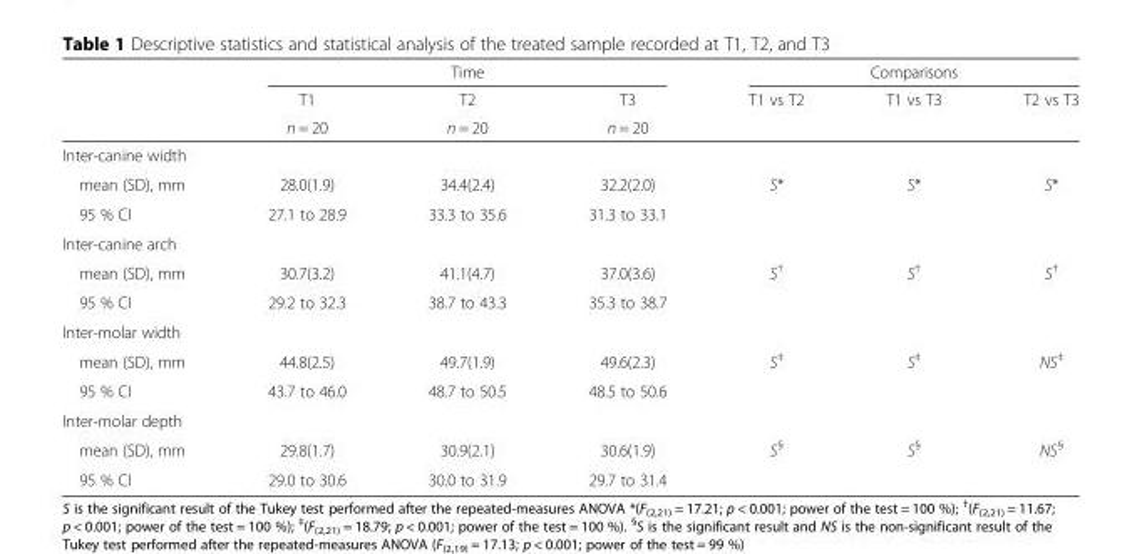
<table><thead><tr><td rowspan="3"></td><td colspan="3">Time</td><td colspan="3">Comparisons</td></tr><tr><td rowspan="2">T1 n = 20</td><td rowspan="2">T2 n = 20</td><td rowspan="2">T3 n = 20</td><td rowspan="2">T1 vs T2</td><td rowspan="2">T1 vs T3</td><td rowspan="2">T2 vs T3</td></tr><tr></tr></thead><tbody><tr><td colspan="7">Inter-canine width</td></tr><tr><td>mean (SD), mm</td><td>28.0(1.9)</td><td>34.4(2.4)</td><td>32.2(2.0)</td><td>S*</td><td>S*</td><td>S*</td></tr><tr><td>95 % CI</td><td>27.1 to 28.9</td><td>33.3 to 35.6</td><td>31.3 to 33.1</td><td></td><td></td><td></td></tr><tr><td colspan="7">Inter-canine arch</td></tr><tr><td>mean (SD), mm</td><td>30.7(3.2)</td><td>41.1(4.7)</td><td>37.0(3.6)</td><td>S<sup>†</sup></td><td>S<sup>†</sup></td><td>S<sup>†</sup></td></tr><tr><td>95 % CI</td><td>29.2 to 32.3</td><td>38.7 to 43.3</td><td>35.3 to 38.7</td><td></td><td></td><td></td></tr><tr><td colspan="7">Inter-molar width</td></tr><tr><td>mean (SD), mm</td><td>44.8(2.5)</td><td>49.7(1.9)</td><td>49.6(2.3)</td><td>S<sup>‡</sup></td><td>S<sup>‡</sup></td><td>NS<sup>‡</sup></td></tr><tr><td>95 % CI</td><td>43.7 to 46.0</td><td>48.7 to 50.5</td><td>48.5 to 50.6</td><td></td><td></td><td></td></tr><tr><td colspan="7">Inter-molar depth</td></tr><tr><td>mean (SD), mm</td><td>29.8(1.7)</td><td>30.9(2.1)</td><td>30.6(1.9)</td><td>S<sup>§</sup></td><td>S<sup>§</sup></td><td>NS<sup>§</sup></td></tr><tr><td>95 % CI</td><td>29.0 to 30.6</td><td>30.0 to 31.9</td><td>29.7 to 31.4</td><td></td><td></td><td></td></tr></tbody></table>